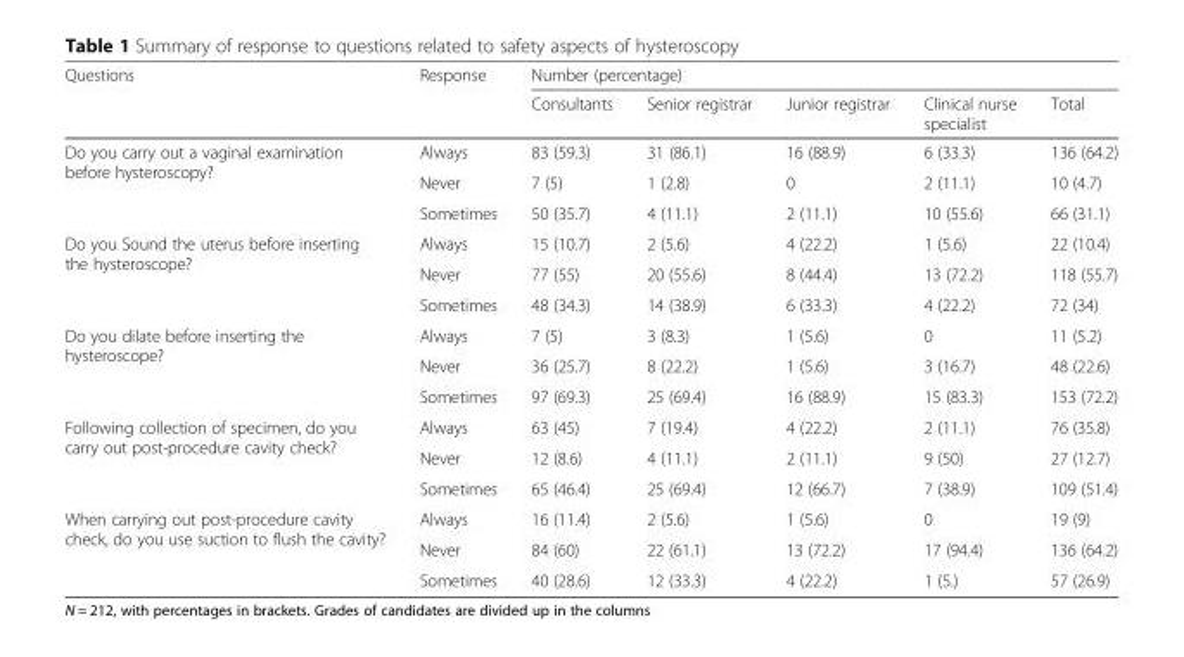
<table><thead><tr><td rowspan="2">Questions</td><td rowspan="2">Response</td><td colspan="5">Number (percentage)</td></tr><tr><td>Consultants</td><td>Senior registrar</td><td>Junior registrar</td><td>Clinical nurse specialist</td><td>Total</td></tr></thead><tbody><tr><td rowspan="3">Do you carry out a vaginal examination before hysteroscopy?</td><td>Always</td><td>83 (59.3)</td><td>31 (86.1)</td><td>16 (88.9)</td><td>6 (33.3)</td><td>136 (64.2)</td></tr><tr><td>Never</td><td>7 (5)</td><td>1 (2.8)</td><td>0</td><td>2 (11.1)</td><td>10 (4.7)</td></tr><tr><td>Sometimes</td><td>50 (35.7)</td><td>4 (11.1)</td><td>2 (11.1)</td><td>10 (55.6)</td><td>66 (31.1)</td></tr><tr><td rowspan="3">Do you Sound the uterus before inserting the hysteroscope?</td><td>Always</td><td>15 (10.7)</td><td>2 (5.6)</td><td>4 (22.2)</td><td>1 (5.6)</td><td>22 (10.4)</td></tr><tr><td>Never</td><td>77 (55)</td><td>20 (55.6)</td><td>8 (44.4)</td><td>13 (72.2)</td><td>118 (55.7)</td></tr><tr><td>Sometimes</td><td>48 (34.3)</td><td>14 (38.9)</td><td>6 (33.3)</td><td>4 (22.2)</td><td>72 (34)</td></tr><tr><td rowspan="3">Do you dilate before inserting the hysteroscope?</td><td>Always</td><td>7 (5)</td><td>3 (8.3)</td><td>1 (5.6)</td><td>0</td><td>11 (5.2)</td></tr><tr><td>Never</td><td>36 (25.7)</td><td>8 (22.2)</td><td>1 (5.6)</td><td>3 (16.7)</td><td>48 (22.6)</td></tr><tr><td>Sometimes</td><td>97 (69.3)</td><td>25 (69.4)</td><td>16 (88.9)</td><td>15 (83.3)</td><td>153 (72.2)</td></tr><tr><td rowspan="3">Following collection of specimen, do you carry out post-procedure cavity check?</td><td>Always</td><td>63 (45)</td><td>7 (19.4)</td><td>4 (22.2)</td><td>2 (11.1)</td><td>76 (35.8)</td></tr><tr><td>Never</td><td>12 (8.6)</td><td>4 (11.1)</td><td>2 (11.1)</td><td>9 (50)</td><td>27 (12.7)</td></tr><tr><td>Sometimes</td><td>65 (46.4)</td><td>25 (69.4)</td><td>12 (66.7)</td><td>7 (38.9)</td><td>109 (51.4)</td></tr><tr><td rowspan="3">When carrying out post-procedure cavity check, do you use suction to flush the cavity?</td><td>Always</td><td>16 (11.4)</td><td>2 (5.6)</td><td>1 (5.6)</td><td>0</td><td>19 (9)</td></tr><tr><td>Never</td><td>84 (60)</td><td>22 (61.1)</td><td>13 (72.2)</td><td>17 (94.4)</td><td>136 (64.2)</td></tr><tr><td>Sometimes</td><td>40 (28.6)</td><td>12 (33.3)</td><td>4 (22.2)</td><td>1 (5.)</td><td>57 (26.9)</td></tr></tbody></table>